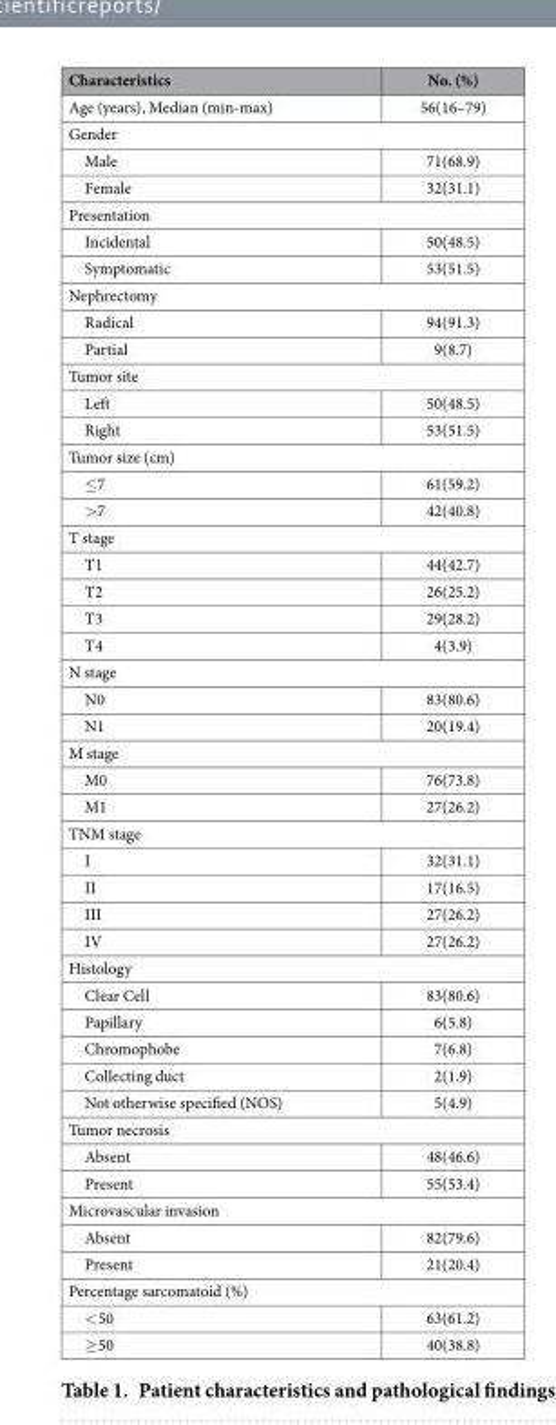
<table><thead><tr><td>Characteristics</td><td>No. (%)</td></tr></thead><tbody><tr><td>Age (years), Median (min-max)</td><td>56(16–79)</td></tr><tr><td colspan="2">Gender</td></tr><tr><td>Male</td><td>71(68.9)</td></tr><tr><td>Female</td><td>32(31.1)</td></tr><tr><td colspan="2">Presentation</td></tr><tr><td>Incidental</td><td>50(48.5)</td></tr><tr><td>Symptomatic</td><td>53(51.5)</td></tr><tr><td colspan="2">Nephrectomy</td></tr><tr><td>Radical</td><td>94(91.3)</td></tr><tr><td>Partial</td><td>9(8.7)</td></tr><tr><td colspan="2">Tumor site</td></tr><tr><td>Left</td><td>50(48.5)</td></tr><tr><td>Right</td><td>53(51.5)</td></tr><tr><td colspan="2">Tumor size (cm)</td></tr><tr><td>≤7</td><td>61(59.2)</td></tr><tr><td>&gt;7</td><td>42(40.8)</td></tr><tr><td colspan="2">T stage</td></tr><tr><td>T1</td><td>44(42.7)</td></tr><tr><td>T2</td><td>26(25.2)</td></tr><tr><td>T3</td><td>29(28.2)</td></tr><tr><td>T4</td><td>4(3.9)</td></tr><tr><td colspan="2">N stage</td></tr><tr><td>N0</td><td>83(80.6)</td></tr><tr><td>N1</td><td>20(19.4)</td></tr><tr><td colspan="2">M stage</td></tr><tr><td>M0</td><td>76(73.8)</td></tr><tr><td>M1</td><td>27(26.2)</td></tr><tr><td colspan="2">TNM stage</td></tr><tr><td>I</td><td>32(31.1)</td></tr><tr><td>II</td><td>17(16.5)</td></tr><tr><td>III</td><td>27(26.2)</td></tr><tr><td>IV</td><td>27(26.2)</td></tr><tr><td colspan="2">Histology</td></tr><tr><td>Clear Cell</td><td>83(80.6)</td></tr><tr><td>Papillary</td><td>6(5.8)</td></tr><tr><td>Chromophobe</td><td>7(6.8)</td></tr><tr><td>Collecting duct</td><td>2(1.9)</td></tr><tr><td>Not otherwise specified (NOS)</td><td>5(4.9)</td></tr><tr><td colspan="2">Tumor necrosis</td></tr><tr><td>Absent</td><td>48(46.6)</td></tr><tr><td>Present</td><td>55(53.4)</td></tr><tr><td colspan="2">Microvascular invasion</td></tr><tr><td>Absent</td><td>82(79.6)</td></tr><tr><td>Present</td><td>21(20.4)</td></tr><tr><td colspan="2">Percentage sarcomatoid (%)</td></tr><tr><td>&lt; 50</td><td>63(61.2)</td></tr><tr><td>≥ 50</td><td>40(38.8)</td></tr></tbody></table>